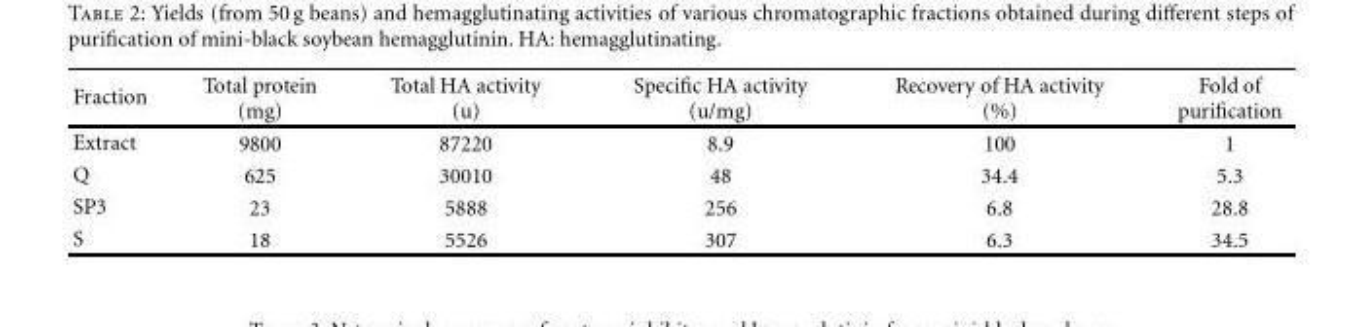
<table><thead><tr><td>Fraction</td><td>Total protein (mg)</td><td>Total HA activity (u)</td><td>Specific HA activity (u/mg)</td><td>Recovery of HA activity (%)</td><td>Fold of purification</td></tr></thead><tbody><tr><td>Extract</td><td>9800</td><td>87220</td><td>8.9</td><td>100</td><td>1</td></tr><tr><td>Q</td><td>625</td><td>30010</td><td>48</td><td>34.4</td><td>5.3</td></tr><tr><td>SP3</td><td>23</td><td>5888</td><td>256</td><td>6.8</td><td>28.8</td></tr><tr><td>S</td><td>18</td><td>5526</td><td>307</td><td>6.3</td><td>34.5</td></tr></tbody></table>